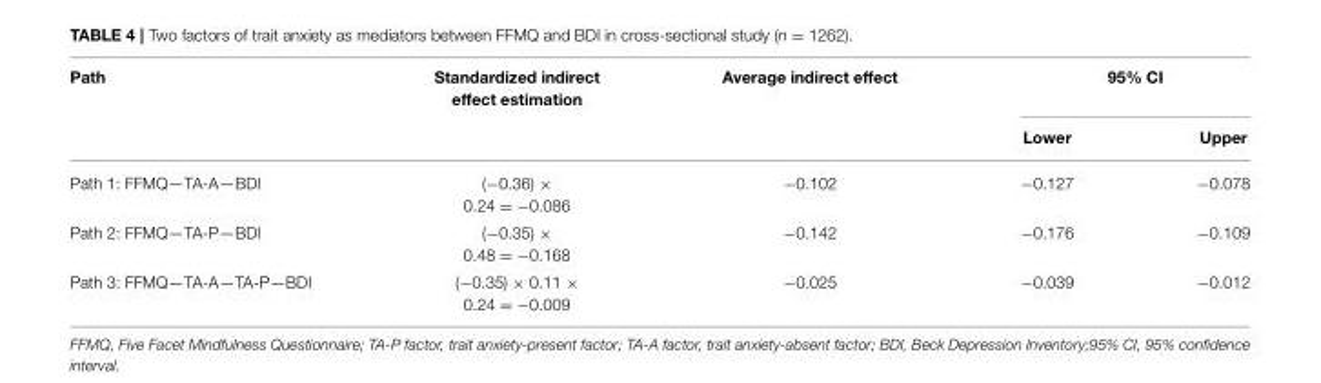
<table><thead><tr><td rowspan="2">Path</td><td rowspan="2">Standardized indirect effect estimation</td><td rowspan="2">Average indirect effect</td><td colspan="2">95% CI</td></tr><tr><td>Lower</td><td>Upper</td></tr></thead><tbody><tr><td>Path 1: FFMQ—TA-A—BDI</td><td>(−0.36) × 0.24 = −0.086</td><td>−0.102</td><td>−0.127</td><td>−0.078</td></tr><tr><td>Path 2: FFMQ—TA-P—BDI</td><td>(−0.35) × 0.48 = −0.168</td><td>−0.142</td><td>−0.176</td><td>−0.109</td></tr><tr><td>Path 3: FFMQ—TA-A—TA-P—BDI</td><td>(−0.35) × 0.11 × 0.24 = −0.009</td><td>−0.025</td><td>−0.039</td><td>−0.012</td></tr></tbody></table>